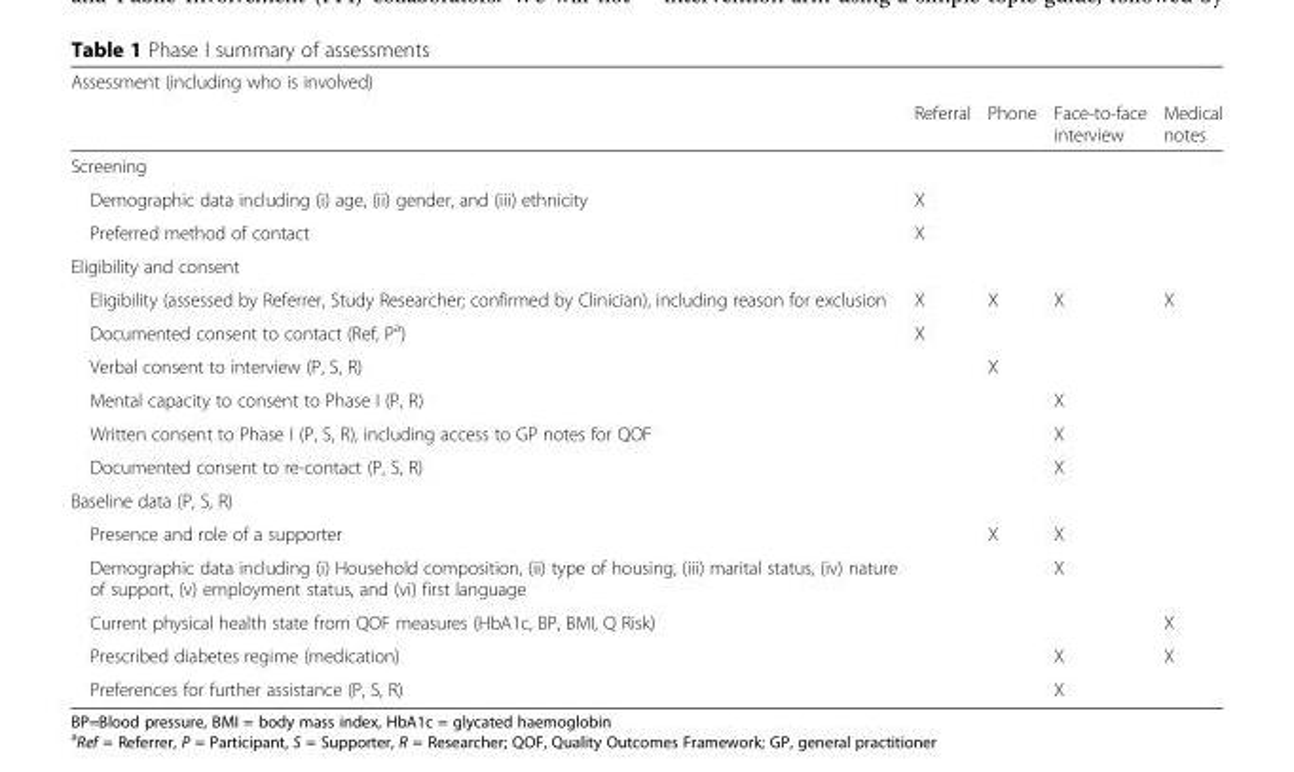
<table><thead><tr><td rowspan="2">Assessment (including who is involved)</td><td rowspan="2">Referral</td><td rowspan="2">Phone</td><td rowspan="2">Face-to-face interview</td><td rowspan="2">Medical notes</td></tr><tr></tr></thead><tbody><tr><td colspan="5">Screening</td></tr><tr><td>Demographic data including (i) age, (ii) gender, and (iii) ethnicity</td><td>X</td><td></td><td></td><td></td></tr><tr><td>Preferred method of contact</td><td>X</td><td></td><td></td><td></td></tr><tr><td colspan="5">Eligibility and consent</td></tr><tr><td>Eligibility (assessed by Referrer, Study Researcher; confirmed by Clinician), including reason for exclusion</td><td>X</td><td>X</td><td>X</td><td>X</td></tr><tr><td>Documented consent to contact (Ref, P<sup>a</sup>)</td><td>X</td><td></td><td></td><td></td></tr><tr><td>Verbal consent to interview (P, S, R)</td><td></td><td>X</td><td></td><td></td></tr><tr><td>Mental capacity to consent to Phase I (P, R)</td><td></td><td></td><td>X</td><td></td></tr><tr><td>Written consent to Phase I (P, S, R), including access to GP notes for QOF</td><td></td><td></td><td>X</td><td></td></tr><tr><td>Documented consent to re-contact (P, S, R)</td><td></td><td></td><td>X</td><td></td></tr><tr><td colspan="5">Baseline data (P, S, R)</td></tr><tr><td>Presence and role of a supporter</td><td></td><td>X</td><td>X</td><td></td></tr><tr><td>Demographic data including (i) Household composition, (ii) type of housing, (iii) marital status, (iv) nature of support, (v) employment status, and (vi) first language</td><td></td><td></td><td>X</td><td></td></tr><tr><td>Current physical health state from QOF measures (HbA1c, BP, BMI, Q Risk)</td><td></td><td></td><td></td><td>X</td></tr><tr><td>Prescribed diabetes regime (medication)</td><td></td><td></td><td>X</td><td>X</td></tr><tr><td>Preferences for further assistance (P, S, R)</td><td></td><td></td><td>X</td><td></td></tr></tbody></table>